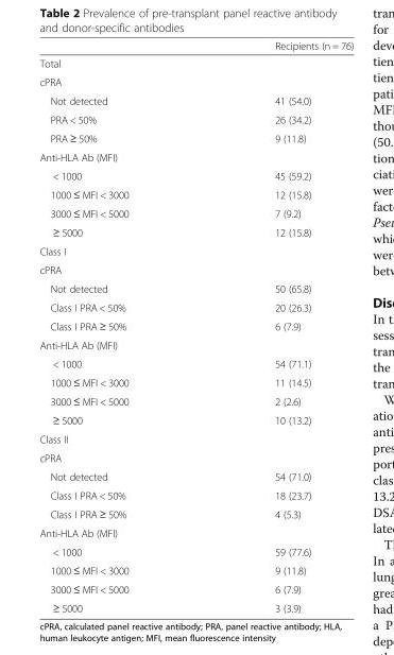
<table><thead><tr><td></td><td>Recipients (n = 76)</td></tr></thead><tbody><tr><td colspan="2">Total</td></tr><tr><td colspan="2">cPRA</td></tr><tr><td>Not detected</td><td>41 (54.0)</td></tr><tr><td>PRA &lt; 50%</td><td>26 (34.2)</td></tr><tr><td>PRA ≥ 50%</td><td>9 (11.8)</td></tr><tr><td colspan="2">Anti-HLA Ab (MFI)</td></tr><tr><td>&lt; 1000</td><td>45 (59.2)</td></tr><tr><td>1000 ≤ MFI &lt; 3000</td><td>12 (15.8)</td></tr><tr><td>3000 ≤ MFI &lt; 5000</td><td>7 (9.2)</td></tr><tr><td>≥ 5000</td><td>12 (15.8)</td></tr><tr><td colspan="2">Class I</td></tr><tr><td colspan="2">cPRA</td></tr><tr><td>Not detected</td><td>50 (65.8)</td></tr><tr><td>Class I PRA &lt; 50%</td><td>20 (26.3)</td></tr><tr><td>Class I PRA ≥ 50%</td><td>6 (7.9)</td></tr><tr><td colspan="2">Anti-HLA Ab (MFI)</td></tr><tr><td>&lt; 1000</td><td>54 (71.1)</td></tr><tr><td>1000 ≤ MFI &lt; 3000</td><td>11 (14.5)</td></tr><tr><td>3000 ≤ MFI &lt; 5000</td><td>2 (2.6)</td></tr><tr><td>≥ 5000</td><td>10 (13.2)</td></tr><tr><td colspan="2">Class II</td></tr><tr><td colspan="2">cPRA</td></tr><tr><td>Not detected</td><td>54 (71.0)</td></tr><tr><td>Class I PRA &lt; 50%</td><td>18 (23.7)</td></tr><tr><td>Class I PRA ≥ 50%</td><td>4 (5.3)</td></tr><tr><td colspan="2">Anti-HLA Ab (MFI)</td></tr><tr><td>&lt; 1000</td><td>59 (77.6)</td></tr><tr><td>1000 ≤ MFI &lt; 3000</td><td>9 (11.8)</td></tr><tr><td>3000 ≤ MFI &lt; 5000</td><td>6 (7.9)</td></tr><tr><td>≥ 5000</td><td>3 (3.9)</td></tr></tbody></table>